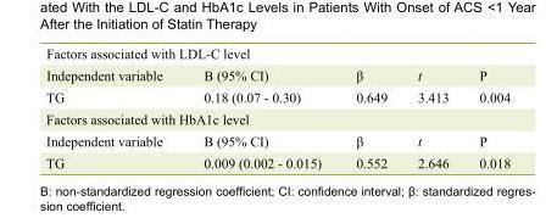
<table><tbody><tr><td colspan="5">Factors associated with LDL-C level</td></tr><tr><td>Independent variable</td><td>B (95% CI)</td><td>β</td><td>t</td><td>P</td></tr><tr><td>TG</td><td>0.18 (0.07 - 0.30)</td><td>0.649</td><td>3.413</td><td>0.004</td></tr><tr><td colspan="5">Factors associated with HbA1c level</td></tr><tr><td>Independent variable</td><td>B (95% CI)</td><td>β</td><td>t</td><td>P</td></tr><tr><td>TG</td><td>0.009 (0.002 - 0.015)</td><td>0.552</td><td>2.646</td><td>0.018</td></tr></tbody></table>